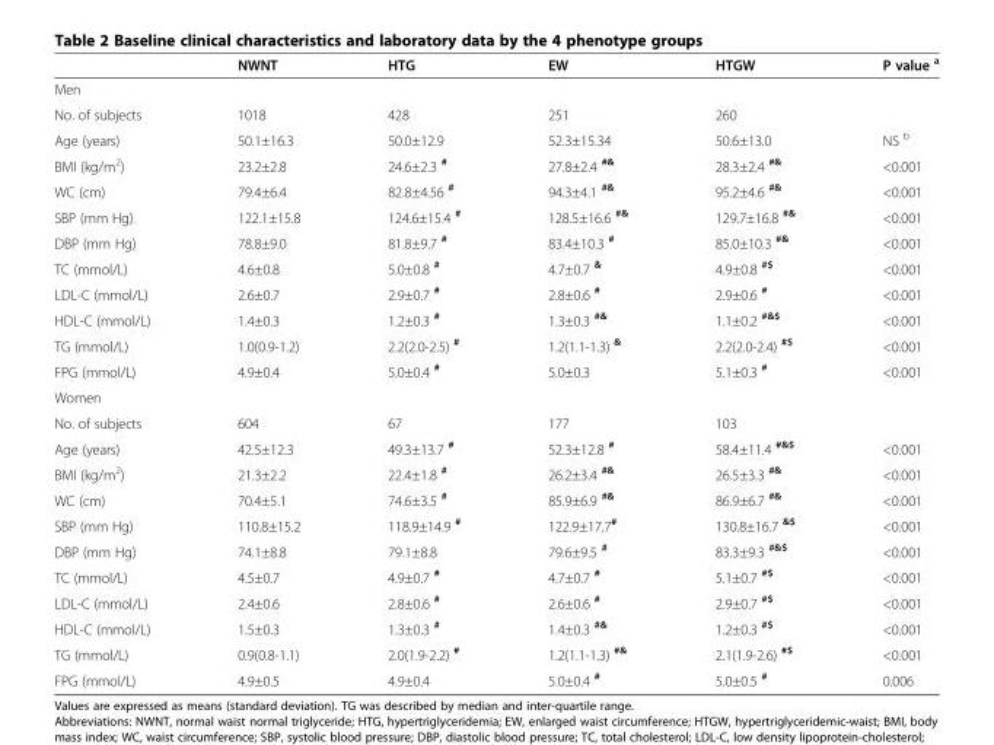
<table><thead><tr><td></td><td>NWNT</td><td>HTG</td><td>EW</td><td>HTGW</td><td>P value <sup>a</sup></td></tr></thead><tbody><tr><td colspan="6">Men</td></tr><tr><td>No. of subjects</td><td>1018</td><td>428</td><td>251</td><td>260</td><td></td></tr><tr><td>Age (years)</td><td>50.1±16.3</td><td>50.0±12.9</td><td>52.3±15.34</td><td>50.6±13.0</td><td>NS <sup>b</sup></td></tr><tr><td>BMI (kg/m<sup>2</sup>)</td><td>23.2±2.8</td><td>24.6±2.3 <sup>#</sup></td><td>27.8±2.4 <sup>#&amp;</sup></td><td>28.3±2.4 <sup>#&amp;</sup></td><td>&lt;0.001</td></tr><tr><td>WC (cm)</td><td>79.4±6.4</td><td>82.8±4.56 <sup>#</sup></td><td>94.3±4.1 <sup>#&amp;</sup></td><td>95.2±4.6 <sup>#&amp;</sup></td><td>&lt;0.001</td></tr><tr><td>SBP (mm Hg)</td><td>122.1±15.8</td><td>124.6±15.4 <sup>#</sup></td><td>128.5±16.6 <sup>#&amp;</sup></td><td>129.7±16.8 <sup>#&amp;</sup></td><td>&lt;0.001</td></tr><tr><td>DBP (mm Hg)</td><td>78.8±9.0</td><td>81.8±9.7 <sup>#</sup></td><td>83.4±10.3 <sup>#</sup></td><td>85.0±10.3 <sup>#&amp;</sup></td><td>&lt;0.001</td></tr><tr><td>TC (mmol/L)</td><td>4.6±0.8</td><td>5.0±0.8 <sup>#</sup></td><td>4.7±0.7 <sup>&amp;</sup></td><td>4.9±0.8 <sup>#$</sup></td><td>&lt;0.001</td></tr><tr><td>LDL-C (mmol/L)</td><td>2.6±0.7</td><td>2.9±0.7 <sup>#</sup></td><td>2.8±0.6 <sup>#</sup></td><td>2.9±0.6 <sup>#</sup></td><td>&lt;0.001</td></tr><tr><td>HDL-C (mmol/L)</td><td>1.4±0.3</td><td>1.2±0.3 <sup>#</sup></td><td>1.3±0.3 <sup>#&amp;</sup></td><td>1.1±0.2 <sup>#&amp;$</sup></td><td>&lt;0.001</td></tr><tr><td>TG (mmol/L)</td><td>1.0(0.9-1.2)</td><td>2.2(2.0-2.5) <sup>#</sup></td><td>1.2(1.1-1.3) <sup>&amp;</sup></td><td>2.2(2.0-2.4) <sup>#$</sup></td><td>&lt;0.001</td></tr><tr><td>FPG (mmol/L)</td><td>4.9±0.4</td><td>5.0±0.4 <sup>#</sup></td><td>5.0±0.3</td><td>5.1±0.3 <sup>#</sup></td><td>&lt;0.001</td></tr><tr><td colspan="6">Women</td></tr><tr><td>No. of subjects</td><td>604</td><td>67</td><td>177</td><td>103</td><td></td></tr><tr><td>Age (years)</td><td>42.5±12.3</td><td>49.3±13.7 <sup>#</sup></td><td>52.3±12.8 <sup>#</sup></td><td>58.4±11.4 <sup>#&amp;$</sup></td><td>&lt;0.001</td></tr><tr><td>BMI (kg/m<sup>2</sup>)</td><td>21.3±2.2</td><td>22.4±1.8 <sup>#</sup></td><td>26.2±3.4 <sup>#&amp;</sup></td><td>26.5±3.3 <sup>#&amp;</sup></td><td>&lt;0.001</td></tr><tr><td>WC (cm)</td><td>70.4±5.1</td><td>74.6±3.5 <sup>#</sup></td><td>85.9±6.9 <sup>#&amp;</sup></td><td>86.9±6.7 <sup>#&amp;</sup></td><td>&lt;0.001</td></tr><tr><td>SBP (mm Hg)</td><td>110.8±15.2</td><td>118.9±14.9 <sup>#</sup></td><td>122.9±17.7<sup>#</sup></td><td>130.8±16.7 <sup>&amp;$</sup></td><td>&lt;0.001</td></tr><tr><td>DBP (mm Hg)</td><td>74.1±8.8</td><td>79.1±8.8</td><td>79.6±9.5 <sup>#</sup></td><td>83.3±9.3 <sup>#&amp;$</sup></td><td>&lt;0.001</td></tr><tr><td>TC (mmol/L)</td><td>4.5±0.7</td><td>4.9±0.7 <sup>#</sup></td><td>4.7±0.7 <sup>#</sup></td><td>5.1±0.7 <sup>#$</sup></td><td>&lt;0.001</td></tr><tr><td>LDL-C (mmol/L)</td><td>2.4±0.6</td><td>2.8±0.6 <sup>#</sup></td><td>2.6±0.6 <sup>#</sup></td><td>2.9±0.7 <sup>#$</sup></td><td>&lt;0.001</td></tr><tr><td>HDL-C (mmol/L)</td><td>1.5±0.3</td><td>1.3±0.3 <sup>#</sup></td><td>1.4±0.3 <sup>#&amp;</sup></td><td>1.2±0.3 <sup>#$</sup></td><td>&lt;0.001</td></tr><tr><td>TG (mmol/L)</td><td>0.9(0.8-1.1)</td><td>2.0(1.9-2.2) <sup>#</sup></td><td>1.2(1.1-1.3) <sup>#&amp;</sup></td><td>2.1(1.9-2.6) <sup>#$</sup></td><td>&lt;0.001</td></tr><tr><td>FPG (mmol/L)</td><td>4.9±0.5</td><td>4.9±0.4</td><td>5.0±0.4 <sup>#</sup></td><td>5.0±0.5 <sup>#</sup></td><td>0.006</td></tr></tbody></table>